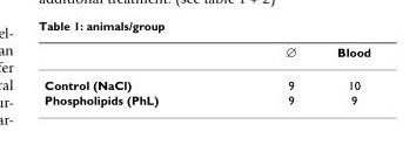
<table><thead><tr><td></td><td>∅</td><td>Blood</td></tr></thead><tbody><tr><td>Control (NaCl)</td><td>9</td><td>10</td></tr><tr><td>Phospholipids (PhL)</td><td>9</td><td>9</td></tr></tbody></table>